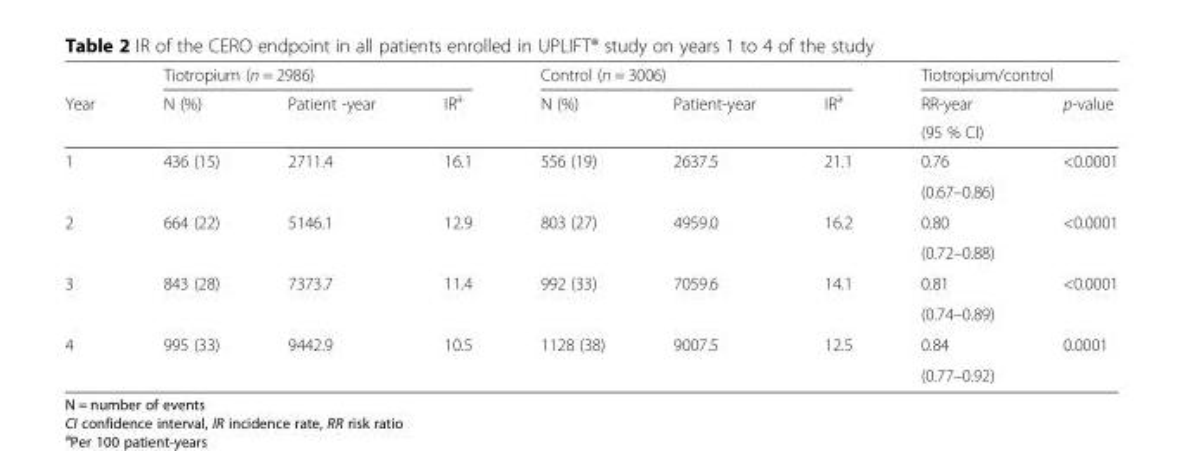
<table><thead><tr><td rowspan="3">Year</td><td colspan="3">Tiotropium (n = 2986)</td><td colspan="3">Control (n = 3006)</td><td colspan="2">Tiotropium/control</td></tr><tr><td rowspan="2">N (%)</td><td rowspan="2">Patient -year</td><td rowspan="2">IR<sup>a</sup></td><td rowspan="2">N (%)</td><td rowspan="2">Patient-year</td><td rowspan="2">IR<sup>a</sup></td><td rowspan="2">RR-year (95 % CI)</td><td rowspan="2">p-value</td></tr><tr></tr></thead><tbody><tr><td rowspan="2">1</td><td>436 (15)</td><td>2711.4</td><td>16.1</td><td>556 (19)</td><td>2637.5</td><td>21.1</td><td>0.76</td><td>&lt;0.0001</td></tr><tr><td></td><td></td><td></td><td></td><td></td><td></td><td>(0.67–0.86)</td><td></td></tr><tr><td rowspan="2">2</td><td>664 (22)</td><td>5146.1</td><td>12.9</td><td>803 (27)</td><td>4959.0</td><td>16.2</td><td>0.80</td><td>&lt;0.0001</td></tr><tr><td></td><td></td><td></td><td></td><td></td><td></td><td>(0.72–0.88)</td><td></td></tr><tr><td rowspan="2">3</td><td>843 (28)</td><td>7373.7</td><td>11.4</td><td>992 (33)</td><td>7059.6</td><td>14.1</td><td>0.81</td><td>&lt;0.0001</td></tr><tr><td></td><td></td><td></td><td></td><td></td><td></td><td>(0.74–0.89)</td><td></td></tr><tr><td rowspan="2">4</td><td>995 (33)</td><td>9442.9</td><td>10.5</td><td>1128 (38)</td><td>9007.5</td><td>12.5</td><td>0.84</td><td>0.0001</td></tr><tr><td></td><td></td><td></td><td></td><td></td><td></td><td>(0.77–0.92)</td><td></td></tr></tbody></table>